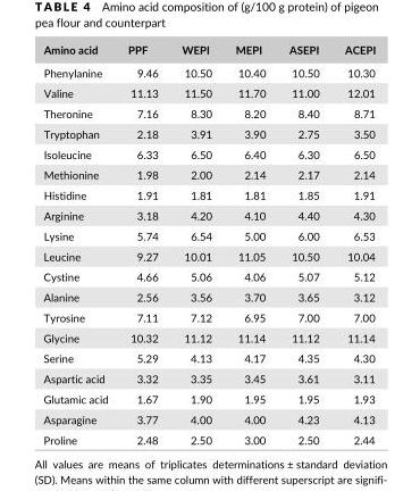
<table><thead><tr><td>Amino acid</td><td>PPF</td><td>WEPI</td><td>MEPI</td><td>ASEPI</td><td>ACEPI</td></tr></thead><tbody><tr><td>Phenylanine</td><td>9.46</td><td>10.50</td><td>10.40</td><td>10.50</td><td>10.30</td></tr><tr><td>Valine</td><td>11.13</td><td>11.50</td><td>11.70</td><td>11.00</td><td>12.01</td></tr><tr><td>Theronine</td><td>7.16</td><td>8.30</td><td>8.20</td><td>8.40</td><td>8.71</td></tr><tr><td>Tryptophan</td><td>2.18</td><td>3.91</td><td>3.90</td><td>2.75</td><td>3.50</td></tr><tr><td>Isoleucine</td><td>6.33</td><td>6.50</td><td>6.40</td><td>6.30</td><td>6.50</td></tr><tr><td>Methionine</td><td>1.98</td><td>2.00</td><td>2.14</td><td>2.17</td><td>2.14</td></tr><tr><td>Histidine</td><td>1.91</td><td>1.81</td><td>1.81</td><td>1.85</td><td>1.91</td></tr><tr><td>Arginine</td><td>3.18</td><td>4.20</td><td>4.10</td><td>4.40</td><td>4.30</td></tr><tr><td>Lysine</td><td>5.74</td><td>6.54</td><td>5.00</td><td>6.00</td><td>6.53</td></tr><tr><td>Leucine</td><td>9.27</td><td>10.01</td><td>11.05</td><td>10.50</td><td>10.04</td></tr><tr><td>Cystine</td><td>4.66</td><td>5.06</td><td>4.06</td><td>5.07</td><td>5.12</td></tr><tr><td>Alanine</td><td>2.56</td><td>3.56</td><td>3.70</td><td>3.65</td><td>3.12</td></tr><tr><td>Tyrosine</td><td>7.11</td><td>7.12</td><td>6.95</td><td>7.00</td><td>7.00</td></tr><tr><td>Glycine</td><td>10.32</td><td>11.12</td><td>11.14</td><td>11.12</td><td>11.14</td></tr><tr><td>Serine</td><td>5.29</td><td>4.13</td><td>4.17</td><td>4.35</td><td>4.30</td></tr><tr><td>Aspartic acid</td><td>3.32</td><td>3.35</td><td>3.45</td><td>3.61</td><td>3.11</td></tr><tr><td>Glutamic acid</td><td>1.67</td><td>1.90</td><td>1.95</td><td>1.95</td><td>1.93</td></tr><tr><td>Asparagine</td><td>3.77</td><td>4.00</td><td>4.00</td><td>4.23</td><td>4.13</td></tr><tr><td>Proline</td><td>2.48</td><td>2.50</td><td>3.00</td><td>2.50</td><td>2.44</td></tr></tbody></table>